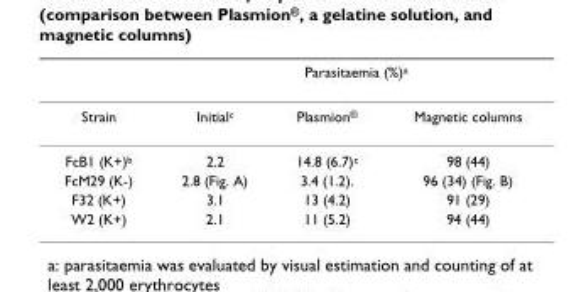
<table><thead><tr><td rowspan="2">Strain</td><td colspan="3">Parasitaemia (%)<sup>a</sup></td></tr><tr><td>Initial<sup>c</sup></td><td>Plasmion<sup>®</sup></td><td>Magnetic columns</td></tr></thead><tbody><tr><td>FcB1 (K+)<sup>b</sup></td><td>2.2</td><td>14.8 (6.7)<sup>c</sup></td><td>98 (44)</td></tr><tr><td>FcM29 (K-)</td><td>2.8 (Fig. A)</td><td>3.4 (1.2).</td><td>96 (34) (Fig. B)</td></tr><tr><td>F32 (K+)</td><td>3.1</td><td>13 (4.2)</td><td>91 (29)</td></tr><tr><td>W2 (K+)</td><td>2.1</td><td>11 (5.2)</td><td>94 (44)</td></tr></tbody></table>